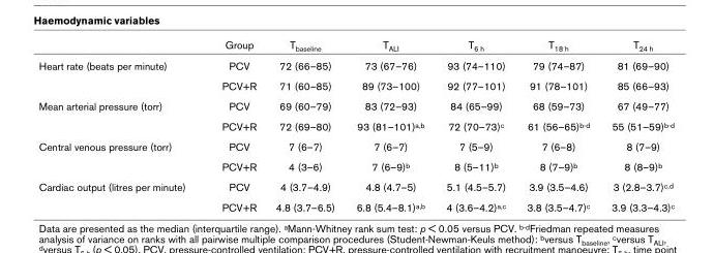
<table><thead><tr><td></td><td>Group</td><td>T<sub>baseline</sub></td><td>T<sub>ALI</sub></td><td>T<sub>6 h</sub></td><td>T<sub>18 h</sub></td><td>T<sub>24 h</sub></td></tr></thead><tbody><tr><td rowspan="2">Heart rate (beats per minute)</td><td>PCV</td><td>72 (66–85)</td><td>73 (67–76)</td><td>93 (74–110)</td><td>79 (74–87)</td><td>81 (69–90)</td></tr><tr><td>PCV+R</td><td>71 (60–85)</td><td>89 (73–100)</td><td>92 (77–101)</td><td>91 (78–101)</td><td>85 (66–93)</td></tr><tr><td rowspan="2">Mean arterial pressure (torr)</td><td>PCV</td><td>69 (60–79)</td><td>83 (72–93)</td><td>84 (65–99)</td><td>68 (59–73)</td><td>67 (49–77)</td></tr><tr><td>PCV+R</td><td>72 (69–80)</td><td>93 (81–101)<sup>a,b</sup></td><td>72 (70–73)<sup>c</sup></td><td>61 (56–65)<sup>b-d</sup></td><td>55 (51–59)<sup>b-d</sup></td></tr><tr><td rowspan="2">Central venous pressure (torr)</td><td>PCV</td><td>7 (6–7)</td><td>7 (6–7)</td><td>7 (5–9)</td><td>7 (6–8)</td><td>8 (7–9)</td></tr><tr><td>PCV+R</td><td>4 (3–6)</td><td>7 (6–9)<sup>b</sup></td><td>8 (5–11)<sup>b</sup></td><td>8 (7–9)<sup>b</sup></td><td>8 (8–9)<sup>b</sup></td></tr><tr><td rowspan="2">Cardiac output (litres per minute)</td><td>PCV</td><td>4 (3.7–4.9)</td><td>4.8 (4.7–5)</td><td>5.1 (4.5–5.7)</td><td>3.9 (3.5–4.6)</td><td>3 (2.8–3.7)<sup>c,d</sup></td></tr><tr><td>PCV+R</td><td>4.8 (3.7–6.5)</td><td>6.8 (5.4–8.1)<sup>a,b</sup></td><td>4 (3.6–4.2)<sup>a,c</sup></td><td>3.8 (3.5–4.7)<sup>c</sup></td><td>3.9 (3.3–4.3)<sup>c</sup></td></tr></tbody></table>